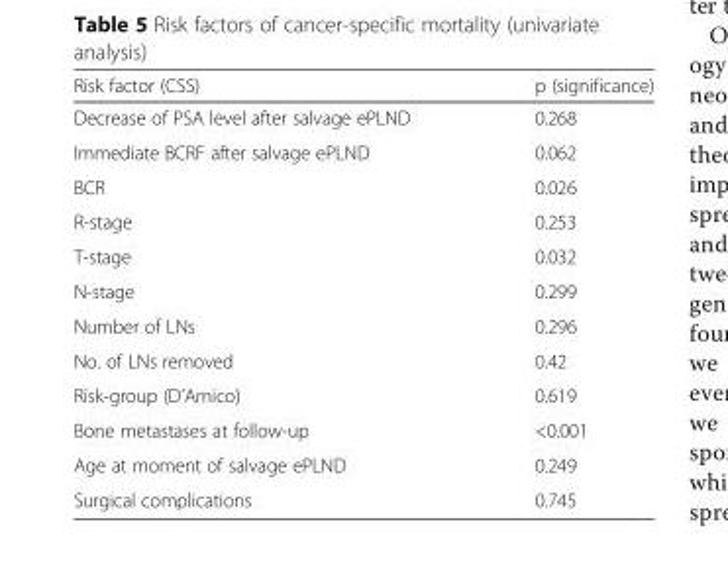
<table><thead><tr><td>Risk factor (CSS)</td><td>p (significance)</td></tr></thead><tbody><tr><td>Decrease of PSA level after salvage ePLND</td><td>0.268</td></tr><tr><td>Immediate BCRF after salvage ePLND</td><td>0.062</td></tr><tr><td>BCR</td><td>0.026</td></tr><tr><td>R-stage</td><td>0.253</td></tr><tr><td>T-stage</td><td>0.032</td></tr><tr><td>N-stage</td><td>0.299</td></tr><tr><td>Number of LNs</td><td>0.296</td></tr><tr><td>No. of LNs removed</td><td>0.42</td></tr><tr><td>Risk-group (D’Amico)</td><td>0.619</td></tr><tr><td>Bone metastases at follow-up</td><td>&lt;0.001</td></tr><tr><td>Age at moment of salvage ePLND</td><td>0.249</td></tr><tr><td>Surgical complications</td><td>0.745</td></tr></tbody></table>